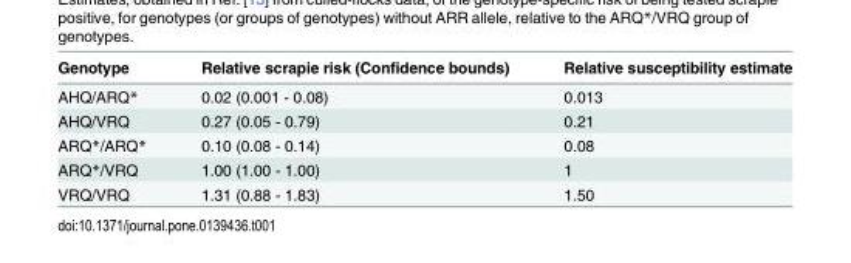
<table><thead><tr><td>Genotype</td><td>Relative scrapie risk (Confidence bounds)</td><td>Relative susceptibility estimate</td></tr></thead><tbody><tr><td>AHQ/ARQ*</td><td>0.02 (0.001 - 0.08)</td><td>0.013</td></tr><tr><td>AHQ/VRQ</td><td>0.27 (0.05 - 0.79)</td><td>0.21</td></tr><tr><td>ARQ*/ARQ*</td><td>0.10 (0.08 - 0.14)</td><td>0.08</td></tr><tr><td>ARQ*/VRQ</td><td>1.00 (1.00 - 1.00)</td><td>1</td></tr><tr><td>VRQ/VRQ</td><td>1.31 (0.88 - 1.83)</td><td>1.50</td></tr></tbody></table>